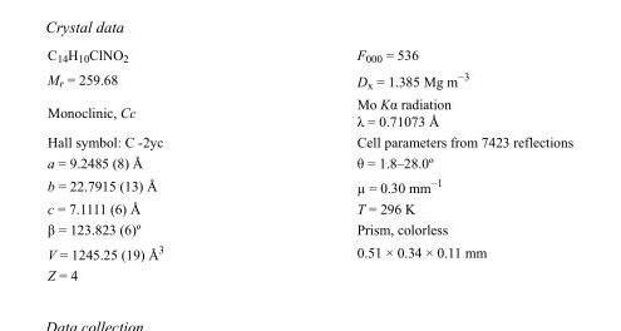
<table><tbody><tr><td>C<sub>14</sub>H<sub>10</sub>ClNO<sub>2</sub></td><td>F<sub>000</sub> = 536</td></tr><tr><td>M<sub>r</sub> = 259.68</td><td>D<sub>x</sub> = 1.385 Mg m<sup>−3</sup></td></tr><tr><td>Monoclinic, Cc</td><td>Mo Kα radiation λ = 0.71073 Å</td></tr><tr><td>Hall symbol: C -2yc</td><td>Cell parameters from 7423 reflections</td></tr><tr><td>a = 9.2485 (8) Å</td><td>θ = 1.8–28.0º</td></tr><tr><td>b = 22.7915 (13) Å</td><td>µ = 0.30 mm<sup>−1</sup></td></tr><tr><td>c = 7.1111 (6) Å</td><td>T = 296 K</td></tr><tr><td>β = 123.823 (6)º</td><td>Prism, colorless</td></tr><tr><td>V = 1245.25 (19) Å<sup>3</sup></td><td>0.51 × 0.34 × 0.11 mm</td></tr><tr><td>Z = 4</td><td></td></tr></tbody></table>